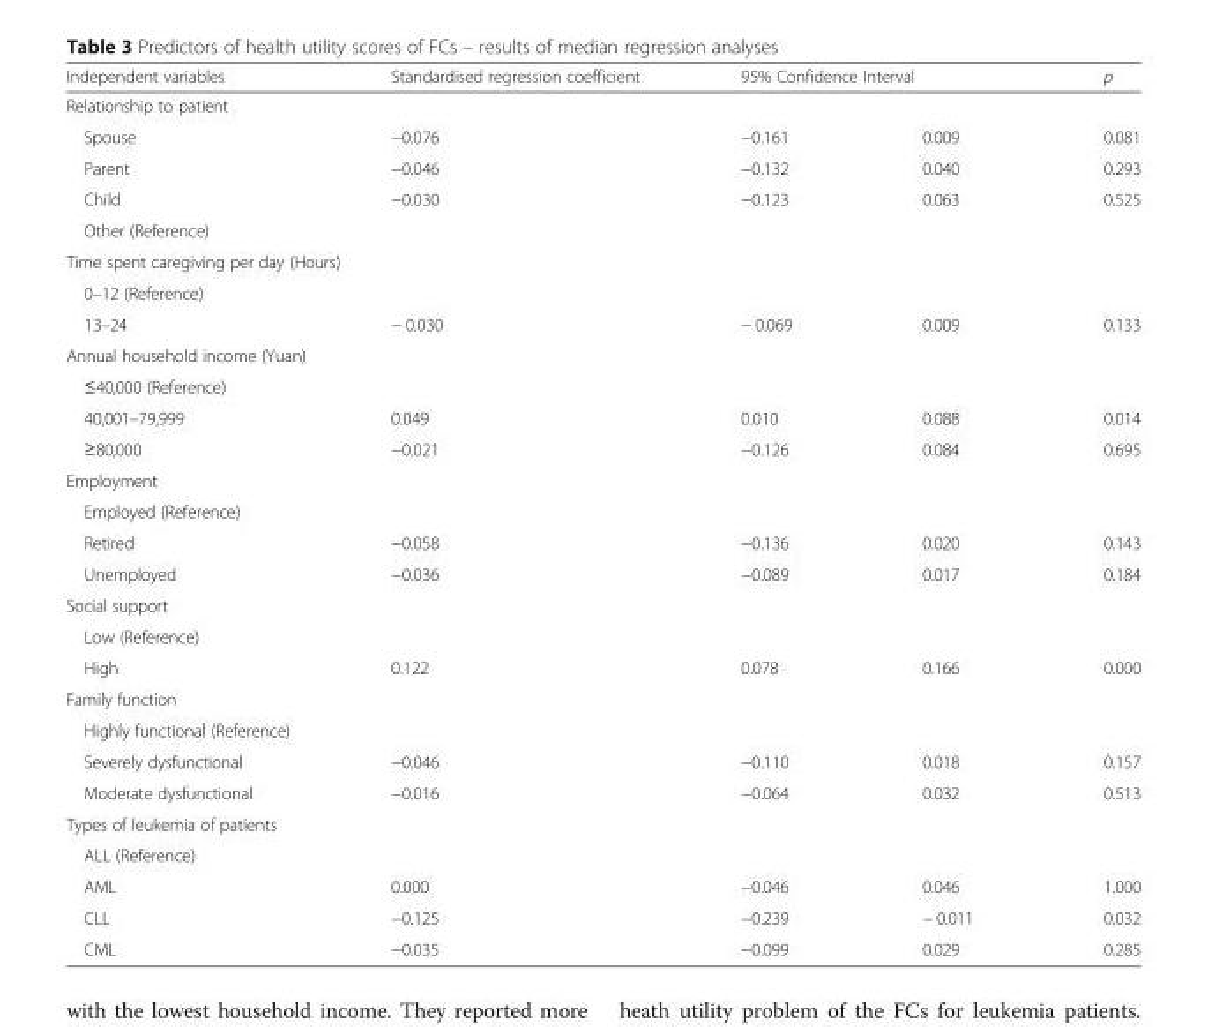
<table><thead><tr><td>Independent variables</td><td>Standardised regression coefficient</td><td colspan="2">95% Confidence Interval</td><td>p</td></tr><tr><td colspan="5">Relationship to patient</td></tr><tr><td>Spouse</td><td>−0.076</td><td>−0.161</td><td>0.009</td><td>0.081</td></tr></thead><tbody><tr><td>Parent</td><td>−0.046</td><td>−0.132</td><td>0.040</td><td>0.293</td></tr><tr><td>Child</td><td>−0.030</td><td>−0.123</td><td>0.063</td><td>0.525</td></tr><tr><td colspan="5">Other (Reference)</td></tr><tr><td colspan="5">Time spent caregiving per day (Hours)</td></tr><tr><td colspan="5">0–12 (Reference)</td></tr><tr><td>13–24</td><td>− 0.030</td><td>− 0.069</td><td>0.009</td><td>0.133</td></tr><tr><td colspan="5">Annual household income (Yuan)</td></tr><tr><td colspan="5">≤40,000 (Reference)</td></tr><tr><td>40,001–79,999</td><td>0.049</td><td>0.010</td><td>0.088</td><td>0.014</td></tr><tr><td>≥80,000</td><td>−0.021</td><td>−0.126</td><td>0.084</td><td>0.695</td></tr><tr><td colspan="5">Employment</td></tr><tr><td colspan="5">Employed (Reference)</td></tr><tr><td>Retired</td><td>−0.058</td><td>−0.136</td><td>0.020</td><td>0.143</td></tr><tr><td>Unemployed</td><td>−0.036</td><td>−0.089</td><td>0.017</td><td>0.184</td></tr><tr><td colspan="5">Social support</td></tr><tr><td colspan="5">Low (Reference)</td></tr><tr><td>High</td><td>0.122</td><td>0.078</td><td>0.166</td><td>0.000</td></tr><tr><td colspan="5">Family function</td></tr><tr><td colspan="5">Highly functional (Reference)</td></tr><tr><td>Severely dysfunctional</td><td>−0.046</td><td>−0.110</td><td>0.018</td><td>0.157</td></tr><tr><td>Moderate dysfunctional</td><td>−0.016</td><td>−0.064</td><td>0.032</td><td>0.513</td></tr><tr><td colspan="5">Types of leukemia of patients</td></tr><tr><td colspan="5">ALL (Reference)</td></tr><tr><td>AML</td><td>0.000</td><td>−0.046</td><td>0.046</td><td>1.000</td></tr><tr><td>CLL</td><td>−0.125</td><td>−0.239</td><td>− 0.011</td><td>0.032</td></tr><tr><td>CML</td><td>−0.035</td><td>−0.099</td><td>0.029</td><td>0.285</td></tr></tbody></table>